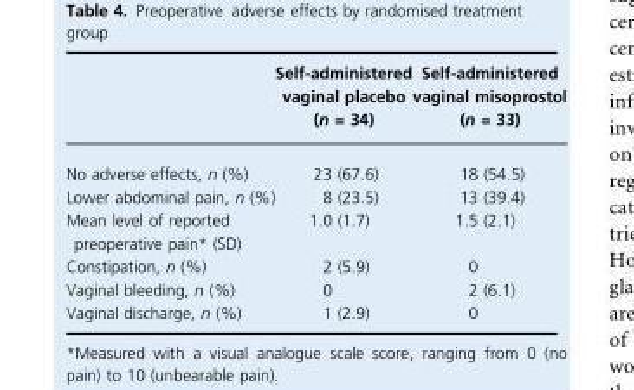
<table><thead><tr><td></td><td>Self-administered vaginal placebo (n = 34)</td><td>Self-administered vaginal misoprostol (n = 33)</td></tr></thead><tbody><tr><td>No adverse effects, n (%)</td><td>23 (67.6)</td><td>18 (54.5)</td></tr><tr><td>Lower abdominal pain, n (%)</td><td>8 (23.5)</td><td>13 (39.4)</td></tr><tr><td>Mean level of reported preoperative pain* (SD)</td><td>1.0 (1.7)</td><td>1.5 (2.1)</td></tr><tr><td>Constipation, n (%)</td><td>2 (5.9)</td><td>0</td></tr><tr><td>Vaginal bleeding, n (%)</td><td>0</td><td>2 (6.1)</td></tr><tr><td>Vaginal discharge, n (%)</td><td>1 (2.9)</td><td>0</td></tr></tbody></table>